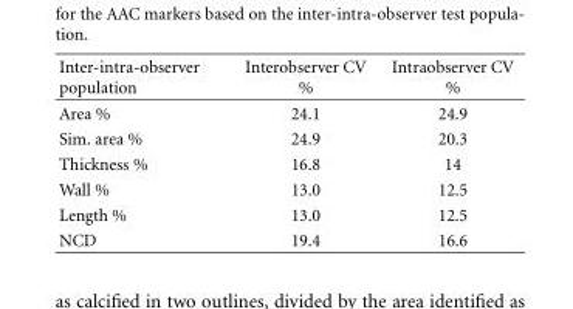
<table><thead><tr><td>Inter-intra-observer population</td><td>Interobserver CV %</td><td>Intraobserver CV %</td></tr></thead><tbody><tr><td>Area %</td><td>24.1</td><td>24.9</td></tr><tr><td>Sim. area %</td><td>24.9</td><td>20.3</td></tr><tr><td>Thickness %</td><td>16.8</td><td>14</td></tr><tr><td>Wall %</td><td>13.0</td><td>12.5</td></tr><tr><td>Length %</td><td>13.0</td><td>12.5</td></tr><tr><td>NCD</td><td>19.4</td><td>16.6</td></tr></tbody></table>